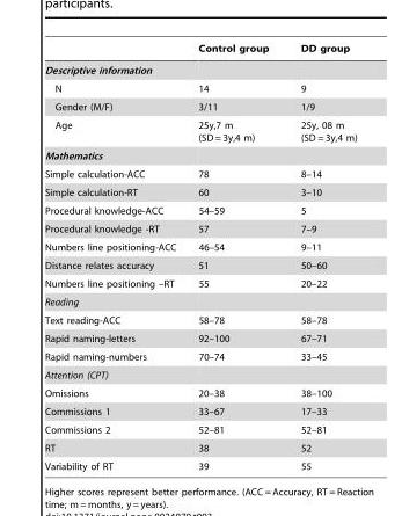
<table><thead><tr><td></td><td>Control group</td><td>DD group</td></tr></thead><tbody><tr><td colspan="3">Descriptive information</td></tr><tr><td>N</td><td>14</td><td>9</td></tr><tr><td>Gender (M/F)</td><td>3/11</td><td>1/9</td></tr><tr><td>Age</td><td>25y,7 m (SD = 3y,4 m)</td><td>25y, 08 m (SD = 3y,4 m)</td></tr><tr><td colspan="3">Mathematics</td></tr><tr><td>Simple calculation-ACC</td><td>78</td><td>8–14</td></tr><tr><td>Simple calculation-RT</td><td>60</td><td>3–10</td></tr><tr><td>Procedural knowledge-ACC</td><td>54–59</td><td>5</td></tr><tr><td>Procedural knowledge -RT</td><td>57</td><td>7–9</td></tr><tr><td>Numbers line positioning-ACC</td><td>46–54</td><td>9–11</td></tr><tr><td>Distance relates accuracy</td><td>51</td><td>50–60</td></tr><tr><td>Numbers line positioning –RT</td><td>55</td><td>20–22</td></tr><tr><td colspan="3">Reading</td></tr><tr><td>Text reading-ACC</td><td>58–78</td><td>58–78</td></tr><tr><td>Rapid naming-letters</td><td>92–100</td><td>67–71</td></tr><tr><td>Rapid naming-numbers</td><td>70–74</td><td>33–45</td></tr><tr><td colspan="3">Attention (CPT)</td></tr><tr><td>Omissions</td><td>20–38</td><td>38–100</td></tr><tr><td>Commissions 1</td><td>33–67</td><td>17–33</td></tr><tr><td>Commissions 2</td><td>52–81</td><td>52–81</td></tr><tr><td>RT</td><td>38</td><td>52</td></tr><tr><td>Variability of RT</td><td>39</td><td>55</td></tr></tbody></table>